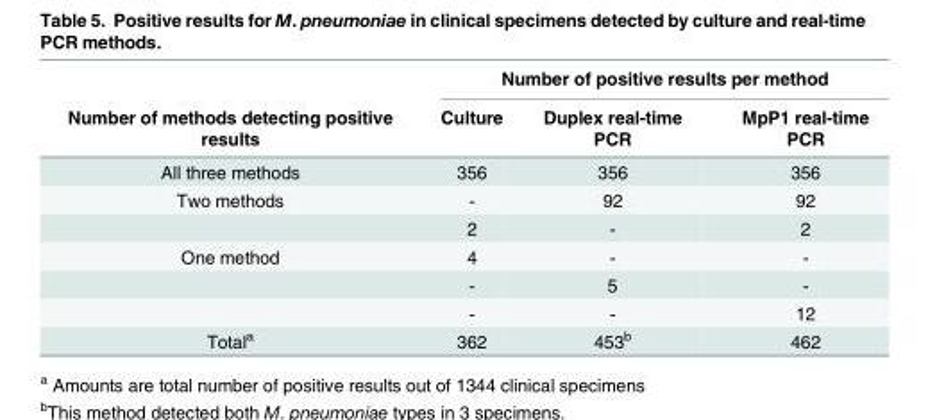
<table><thead><tr><td rowspan="2">Number of methods detecting positive results</td><td colspan="3">Number of positive results per method</td></tr><tr><td>Culture</td><td>Duplex real-time PCR</td><td>MpP1 real-time PCR</td></tr></thead><tbody><tr><td>All three methods</td><td>356</td><td>356</td><td>356</td></tr><tr><td rowspan="2">Two methods</td><td>-</td><td>92</td><td>92</td></tr><tr><td>2</td><td>-</td><td>2</td></tr><tr><td rowspan="3">One method</td><td>4</td><td>-</td><td>-</td></tr><tr><td>-</td><td>5</td><td>-</td></tr><tr><td>-</td><td>-</td><td>12</td></tr><tr><td>Total<sup>a</sup></td><td>362</td><td>453<sup>b</sup></td><td>462</td></tr></tbody></table>